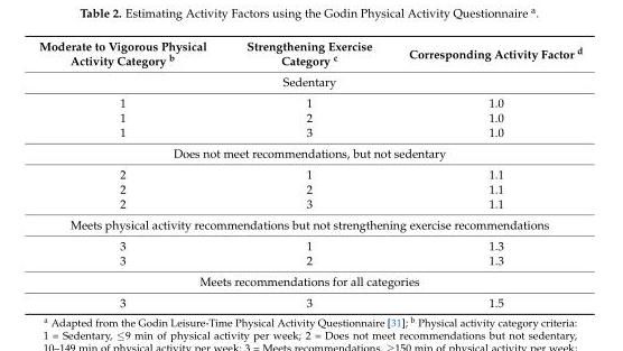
<table><thead><tr><td>Moderate to Vigorous Physical Activity Category <sup>b</sup></td><td>Strengthening Exercise Category <sup>c</sup></td><td>Corresponding Activity Factor <sup>d</sup></td></tr></thead><tbody><tr><td colspan="3">Sedentary</td></tr><tr><td>1</td><td>1</td><td>1.0</td></tr><tr><td>1</td><td>2</td><td>1.0</td></tr><tr><td>1</td><td>3</td><td>1.0</td></tr><tr><td colspan="3">Does not meet recommendations, but not sedentary</td></tr><tr><td>2</td><td>1</td><td>1.1</td></tr><tr><td>2</td><td>2</td><td>1.1</td></tr><tr><td>2</td><td>3</td><td>1.1</td></tr><tr><td colspan="3">Meets physical activity recommendations but not strengthening exercise recommendations</td></tr><tr><td>3</td><td>1</td><td>1.3</td></tr><tr><td>3</td><td>2</td><td>1.3</td></tr><tr><td colspan="3">Meets recommendations for all categories</td></tr><tr><td>3</td><td>3</td><td>1.5</td></tr></tbody></table>